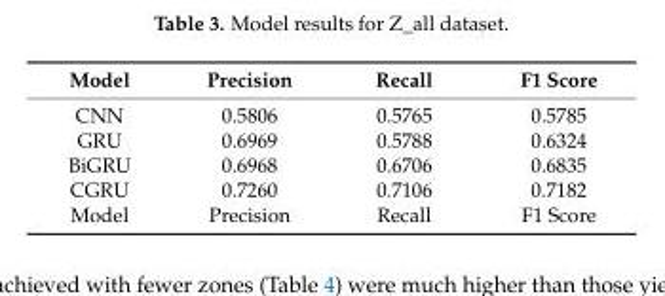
<table><thead><tr><td>Model</td><td>Precision</td><td>Recall</td><td>F1 Score</td></tr></thead><tbody><tr><td>CNN</td><td>0.5806</td><td>0.5765</td><td>0.5785</td></tr><tr><td>GRU</td><td>0.6969</td><td>0.5788</td><td>0.6324</td></tr><tr><td>BiGRU</td><td>0.6968</td><td>0.6706</td><td>0.6835</td></tr><tr><td>CGRU</td><td>0.7260</td><td>0.7106</td><td>0.7182</td></tr><tr><td>Model</td><td>Precision</td><td>Recall</td><td>F1 Score</td></tr></tbody></table>